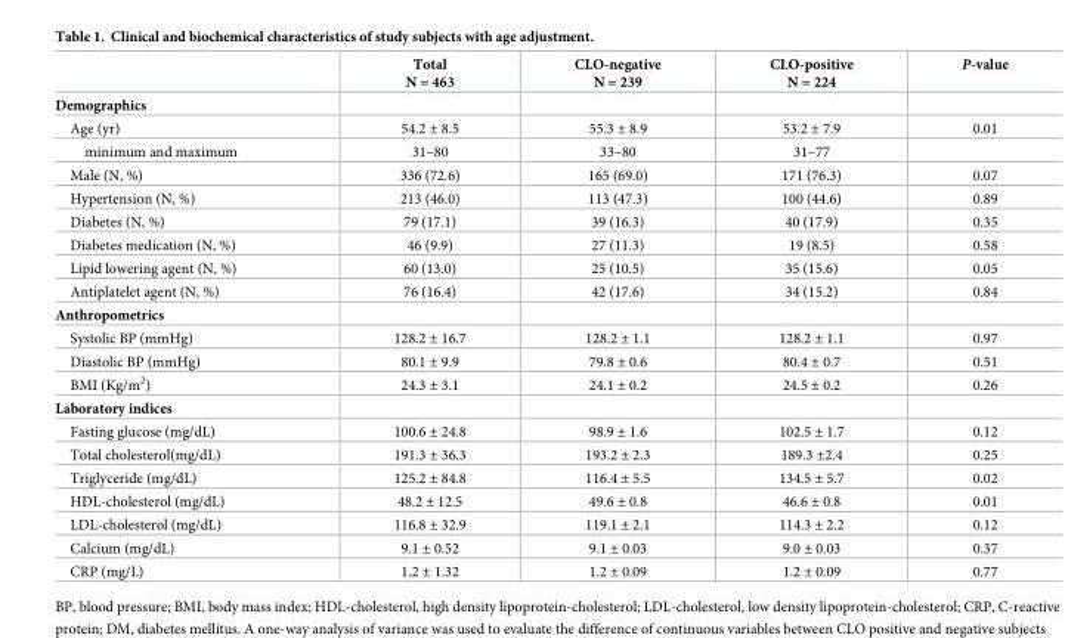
<table><thead><tr><td></td><td>Total N = 463</td><td>CLO-negative N = 239</td><td>CLO-positive N = 224</td><td>P-value</td></tr></thead><tbody><tr><td colspan="5">Demographics</td></tr><tr><td>Age (yr)</td><td>54.2 ± 8.5</td><td>55.3 ± 8.9</td><td>53.2 ± 7.9</td><td>0.01</td></tr><tr><td>minimum and maximum</td><td>31–80</td><td>33–80</td><td>31–77</td><td></td></tr><tr><td>Male (N, %)</td><td>336 (72.6)</td><td>165 (69.0)</td><td>171 (76.3)</td><td>0.07</td></tr><tr><td>Hypertension (N, %)</td><td>213 (46.0)</td><td>113 (47.3)</td><td>100 (44.6)</td><td>0.89</td></tr><tr><td>Diabetes (N, %)</td><td>79 (17.1)</td><td>39 (16.3)</td><td>40 (17.9)</td><td>0.35</td></tr><tr><td>Diabetes medication (N, %)</td><td>46 (9.9)</td><td>27 (11.3)</td><td>19 (8.5)</td><td>0.58</td></tr><tr><td>Lipid lowering agent (N, %)</td><td>60 (13.0)</td><td>25 (10.5)</td><td>35 (15.6)</td><td>0.05</td></tr><tr><td>Antiplatelet agent (N, %)</td><td>76 (16.4)</td><td>42 (17.6)</td><td>34 (15.2)</td><td>0.84</td></tr><tr><td colspan="5">Anthropometrics</td></tr><tr><td>Systolic BP (mmHg)</td><td>128.2 ± 16.7</td><td>128.2 ± 1.1</td><td>128.2 ± 1.1</td><td>0.97</td></tr><tr><td>Diastolic BP (mmHg)</td><td>80.1 ± 9.9</td><td>79.8 ± 0.6</td><td>80.4 ± 0.7</td><td>0.51</td></tr><tr><td>BMI (Kg/m<sup>2</sup>)</td><td>24.3 ± 3.1</td><td>24.1 ± 0.2</td><td>24.5 ± 0.2</td><td>0.26</td></tr><tr><td colspan="5">Laboratory indices</td></tr><tr><td>Fasting glucose (mg/dL)</td><td>100.6 ± 24.8</td><td>98.9 ± 1.6</td><td>102.5 ± 1.7</td><td>0.12</td></tr><tr><td>Total cholesterol(mg/dL)</td><td>191.3 ± 36.3</td><td>193.2 ± 2.3</td><td>189.3 ±2.4</td><td>0.25</td></tr><tr><td>Triglyceride (mg/dL)</td><td>125.2 ± 84.8</td><td>116.4 ± 5.5</td><td>134.5 ± 5.7</td><td>0.02</td></tr><tr><td>HDL-cholesterol (mg/dL)</td><td>48.2 ± 12.5</td><td>49.6 ± 0.8</td><td>46.6 ± 0.8</td><td>0.01</td></tr><tr><td>LDL-cholesterol (mg/dL)</td><td>116.8 ± 32.9</td><td>119.1 ± 2.1</td><td>114.3 ± 2.2</td><td>0.12</td></tr><tr><td>Calcium (mg/dL)</td><td>9.1 ± 0.52</td><td>9.1 ± 0.03</td><td>9.0 ± 0.03</td><td>0.37</td></tr><tr><td>CRP (mg/L)</td><td>1.2 ± 1.32</td><td>1.2 ± 0.09</td><td>1.2 ± 0.09</td><td>0.77</td></tr></tbody></table>